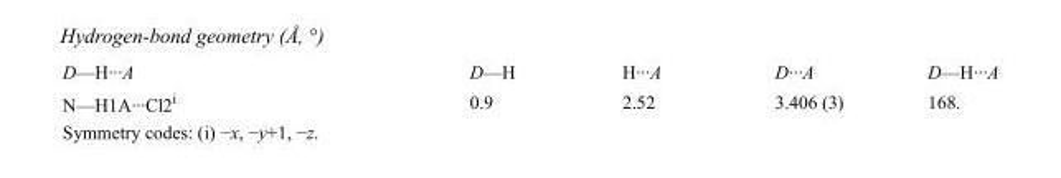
<table><tbody><tr><td>D—H···A</td><td>D—H</td><td>H···A</td><td>D···A</td><td>D—H···A</td></tr><tr><td>N—H1A···Cl2<sup>i</sup></td><td>0.9</td><td>2.52</td><td>3.406 (3)</td><td>168.</td></tr></tbody></table>